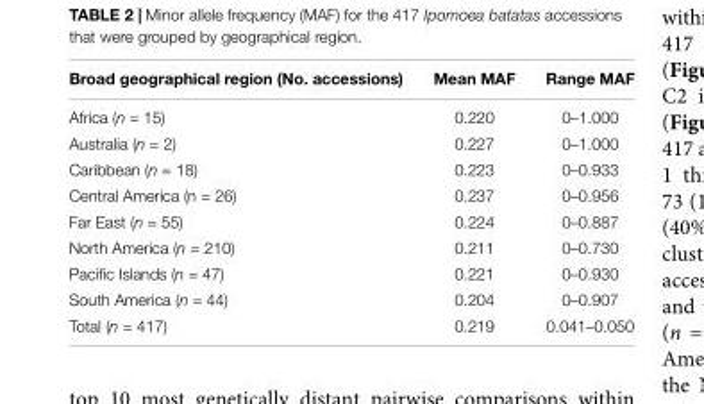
<table><thead><tr><td>Broad geographical region (No. accessions)</td><td>Mean MAF</td><td>Range MAF</td></tr></thead><tbody><tr><td>Africa (n = 15)</td><td>0.220</td><td>0–1.000</td></tr><tr><td>Australia (n = 2)</td><td>0.227</td><td>0–1.000</td></tr><tr><td>Caribbean (n = 18)</td><td>0.223</td><td>0–0.933</td></tr><tr><td>Central America (n = 26)</td><td>0.237</td><td>0–0.956</td></tr><tr><td>Far East (n = 55)</td><td>0.224</td><td>0–0.887</td></tr><tr><td>North America (n = 210)</td><td>0.211</td><td>0–0.730</td></tr><tr><td>Pacific Islands (n = 47)</td><td>0.221</td><td>0–0.930</td></tr><tr><td>South America (n = 44)</td><td>0.204</td><td>0–0.907</td></tr><tr><td>Total (n = 417)</td><td>0.219</td><td>0.041–0.050</td></tr></tbody></table>